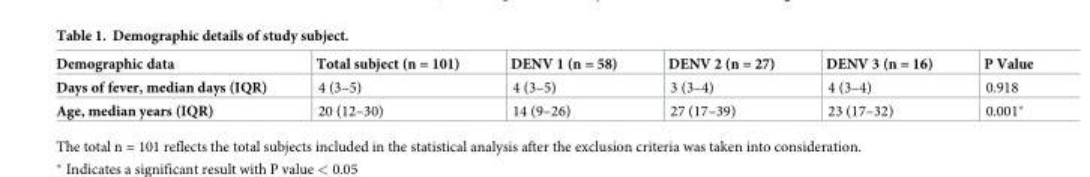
<table><thead><tr><td>Demographic data</td><td>Total subject (n = 101)</td><td>DENV 1 (n = 58)</td><td>DENV 2 (n = 27)</td><td>DENV 3 (n = 16)</td><td>P Value</td></tr></thead><tbody><tr><td>Days of fever, median days (IQR)</td><td>4 (3–5)</td><td>4 (3–5)</td><td>3 (3–4)</td><td>4 (3–4)</td><td>0.918</td></tr><tr><td>Age, median years (IQR)</td><td>20 (12–30)</td><td>14 (9–26)</td><td>27 (17–39)</td><td>23 (17–32)</td><td>0.001*</td></tr></tbody></table>